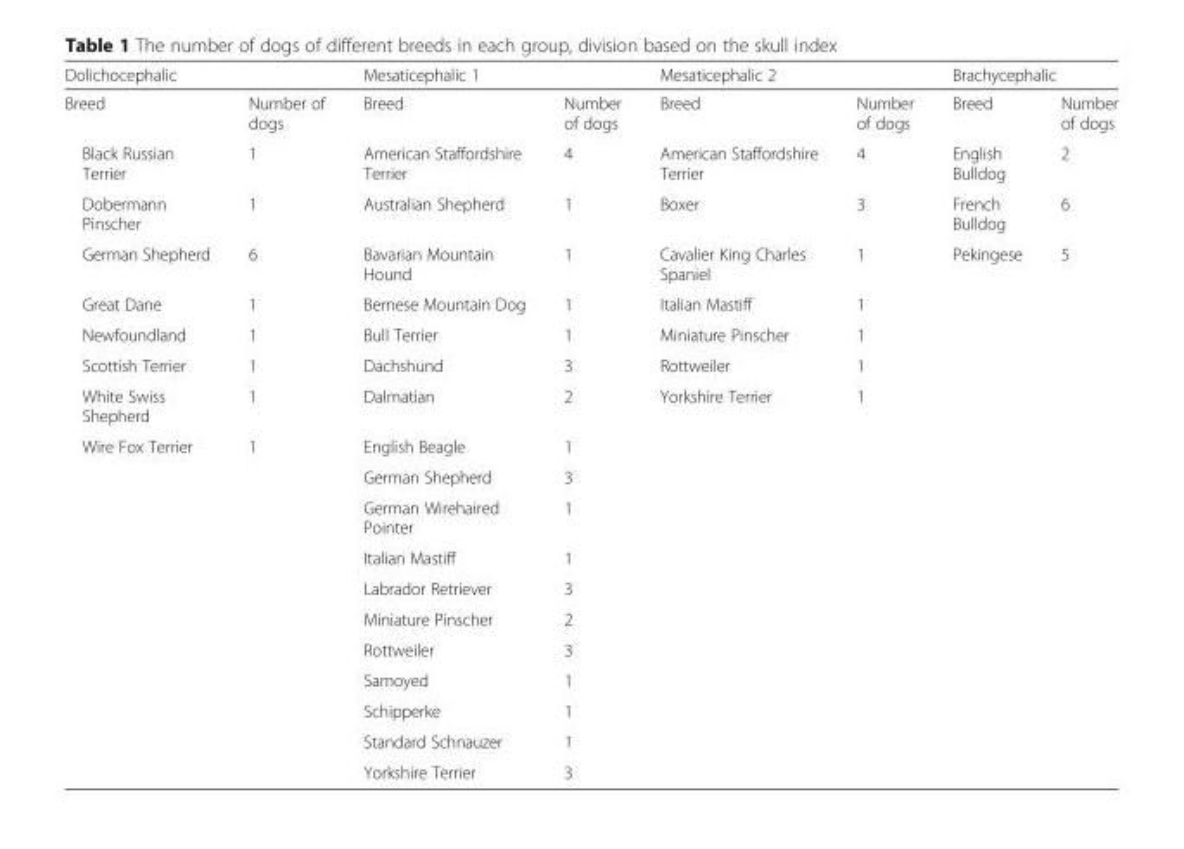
<table><thead><tr><td colspan="2">Dolichocephalic</td><td colspan="2">Mesaticephalic 1</td><td colspan="2">Mesaticephalic 2</td><td colspan="2">Brachycephalic</td></tr><tr><td>Breed</td><td>Number of dogs</td><td>Breed</td><td>Number of dogs</td><td>Breed</td><td>Number of dogs</td><td>Breed</td><td>Number of dogs</td></tr></thead><tbody><tr><td>Black Russian Terrier</td><td>1</td><td>American Staffordshire Terrier</td><td>4</td><td>American Staffordshire Terrier</td><td>4</td><td>English Bulldog</td><td>2</td></tr><tr><td>Dobermann Pinscher</td><td>1</td><td>Australian Shepherd</td><td>1</td><td>Boxer</td><td>3</td><td>French Bulldog</td><td>6</td></tr><tr><td>German Shepherd</td><td>6</td><td>Bavarian Mountain Hound</td><td>1</td><td>Cavalier King Charles Spaniel</td><td>1</td><td>Pekingese</td><td>5</td></tr><tr><td>Great Dane</td><td>1</td><td>Bernese Mountain Dog</td><td>1</td><td>Italian Mastiff</td><td>1</td><td rowspan="15" colspan="2"></td></tr><tr><td>Newfoundland</td><td>1</td><td>Bull Terrier</td><td>1</td><td>Miniature Pinscher</td><td>1</td></tr><tr><td>Scottish Terrier</td><td>1</td><td>Dachshund</td><td>3</td><td>Rottweiler</td><td>1</td></tr><tr><td>White Swiss Shepherd</td><td>1</td><td>Dalmatian</td><td>2</td><td>Yorkshire Terrier</td><td>1</td></tr><tr><td>Wire Fox Terrier</td><td>1</td><td>English Beagle</td><td>1</td><td rowspan="11" colspan="2"></td></tr><tr><td rowspan="10" colspan="2"></td><td>German Shepherd</td><td>3</td></tr><tr><td>German Wirehaired Pointer</td><td>1</td></tr><tr><td>Italian Mastiff</td><td>1</td></tr><tr><td>Labrador Retriever</td><td>3</td></tr><tr><td>Miniature Pinscher</td><td>2</td></tr><tr><td>Rottweiler</td><td>3</td></tr><tr><td>Samoyed</td><td>1</td></tr><tr><td>Schipperke</td><td>1</td></tr><tr><td>Standard Schnauzer</td><td>1</td></tr><tr><td>Yorkshire Terrier</td><td>3</td></tr></tbody></table>